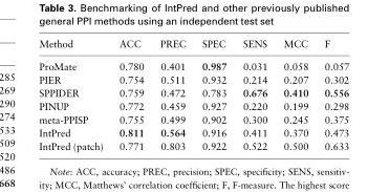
<table><thead><tr><td>Method</td><td>ACC</td><td>PREC</td><td>SPEC</td><td>SENS</td><td>MCC</td><td>F</td></tr></thead><tbody><tr><td>ProMate</td><td>0.780</td><td>0.401</td><td>0.987</td><td>0.031</td><td>0.058</td><td>0.057</td></tr><tr><td>PIER</td><td>0.754</td><td>0.511</td><td>0.932</td><td>0.214</td><td>0.207</td><td>0.302</td></tr><tr><td>SPPIDER</td><td>0.759</td><td>0.472</td><td>0.783</td><td>0.676</td><td>0.410</td><td>0.556</td></tr><tr><td>PINUP</td><td>0.772</td><td>0.459</td><td>0.927</td><td>0.220</td><td>0.199</td><td>0.298</td></tr><tr><td>meta-PPISP</td><td>0.755</td><td>0.499</td><td>0.902</td><td>0.300</td><td>0.245</td><td>0.375</td></tr><tr><td>IntPred</td><td>0.811</td><td>0.564</td><td>0.916</td><td>0.411</td><td>0.370</td><td>0.473</td></tr><tr><td>IntPred (patch)</td><td>0.771</td><td>0.803</td><td>0.922</td><td>0.522</td><td>0.500</td><td>0.633</td></tr></tbody></table>